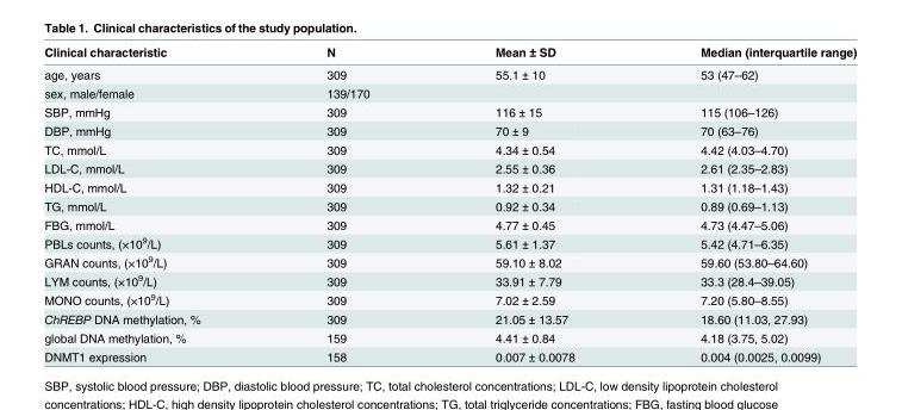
<table><thead><tr><td>Clinical characteristic</td><td>N</td><td>Mean ± SD</td><td>Median (interquartile range)</td></tr></thead><tbody><tr><td>age, years</td><td>309</td><td>55.1 ± 10</td><td>53 (47–62)</td></tr><tr><td>sex, male/female</td><td>139/170</td><td></td><td></td></tr><tr><td>SBP, mmHg</td><td>309</td><td>116 ± 15</td><td>115 (106–126)</td></tr><tr><td>DBP, mmHg</td><td>309</td><td>70 ± 9</td><td>70 (63–76)</td></tr><tr><td>TC, mmol/L</td><td>309</td><td>4.34 ± 0.54</td><td>4.42 (4.03–4.70)</td></tr><tr><td>LDL-C, mmol/L</td><td>309</td><td>2.55 ± 0.36</td><td>2.61 (2.35–2.83)</td></tr><tr><td>HDL-C, mmol/L</td><td>309</td><td>1.32 ± 0.21</td><td>1.31 (1.18–1.43)</td></tr><tr><td>TG, mmol/L</td><td>309</td><td>0.92 ± 0.34</td><td>0.89 (0.69–1.13)</td></tr><tr><td>FBG, mmol/L</td><td>309</td><td>4.77 ± 0.45</td><td>4.73 (4.47–5.06)</td></tr><tr><td>PBLs counts, (×10<sup>9</sup>/L)</td><td>309</td><td>5.61 ± 1.37</td><td>5.42 (4.71–6.35)</td></tr><tr><td>GRAN counts, (×10<sup>9</sup>/L)</td><td>309</td><td>59.10 ± 8.02</td><td>59.60 (53.80–64.60)</td></tr><tr><td>LYM counts, (×10<sup>9</sup>/L)</td><td>309</td><td>33.91 ± 7.79</td><td>33.3 (28.4–39.05)</td></tr><tr><td>MONO counts, (×10<sup>9</sup>/L)</td><td>309</td><td>7.02 ± 2.59</td><td>7.20 (5.80–8.55)</td></tr><tr><td>ChREBP DNA methylation, %</td><td>309</td><td>21.05 ± 13.57</td><td>18.60 (11.03, 27.93)</td></tr><tr><td>global DNA methylation, %</td><td>159</td><td>4.41 ± 0.84</td><td>4.18 (3.75, 5.02)</td></tr><tr><td>DNMT1 expression</td><td>158</td><td>0.007 ± 0.0078</td><td>0.004 (0.0025, 0.0099)</td></tr></tbody></table>